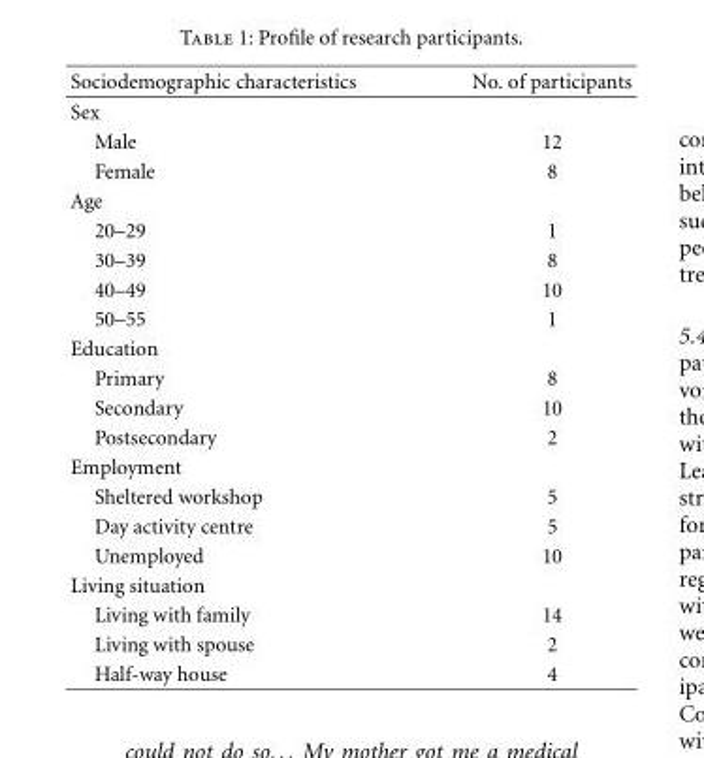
<table><thead><tr><td>Sociodemographic characteristics</td><td>No. of participants</td></tr></thead><tbody><tr><td colspan="2">Sex</td></tr><tr><td>Male</td><td>12</td></tr><tr><td>Female</td><td>8</td></tr><tr><td colspan="2">Age</td></tr><tr><td>20–29</td><td>1</td></tr><tr><td>30–39</td><td>8</td></tr><tr><td>40–49</td><td>10</td></tr><tr><td>50–55</td><td>1</td></tr><tr><td colspan="2">Education</td></tr><tr><td>Primary</td><td>8</td></tr><tr><td>Secondary</td><td>10</td></tr><tr><td>Postsecondary</td><td>2</td></tr><tr><td colspan="2">Employment</td></tr><tr><td>Sheltered workshop</td><td>5</td></tr><tr><td>Day activity centre</td><td>5</td></tr><tr><td>Unemployed</td><td>10</td></tr><tr><td colspan="2">Living situation</td></tr><tr><td>Living with family</td><td>14</td></tr><tr><td>Living with spouse</td><td>2</td></tr><tr><td>Half-way house</td><td>4</td></tr></tbody></table>